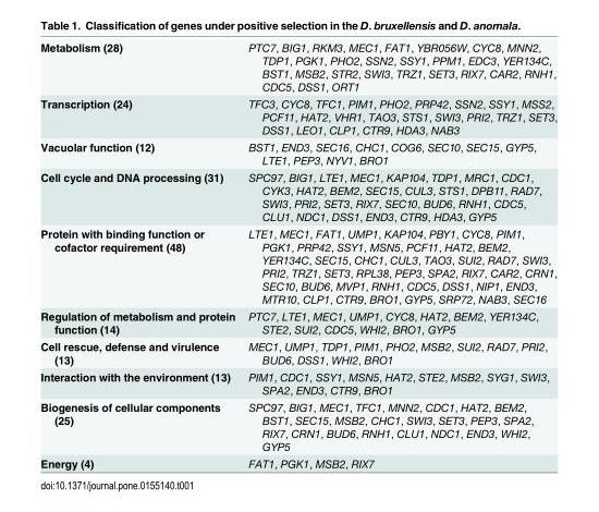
<table><tbody><tr><td>Metabolism (28)</td><td>PTC7, BIG1, RKM3, MEC1, FAT1, YBR056W, CYC8, MNN2, TDP1, PGK1, PHO2, SSN2, SSY1, PPM1, EDC3, YER134C, BST1, MSB2, STR2, SWI3, TRZ1, SET3, RIX7, CAR2, RNH1, CDC5, DSS1, ORT1</td></tr><tr><td>Transcription (24)</td><td>TFC3, CYC8, TFC1, PIM1, PHO2, PRP42, SSN2, SSY1, MSS2, PCF11, HAT2, VHR1, TAO3, STS1, SWI3, PRI2, TRZ1, SET3, DSS1, LEO1, CLP1, CTR9, HDA3, NAB3</td></tr><tr><td>Vacuolar function (12)</td><td>BST1, END3, SEC16, CHC1, COG6, SEC10, SEC15, GYP5, LTE1, PEP3, NYV1, BRO1</td></tr><tr><td>Cell cycle and DNA processing (31)</td><td>SPC97, BIG1, LTE1, MEC1, KAP104, TDP1, MRC1, CDC1, CYK3, HAT2, BEM2, SEC15, CUL3, STS1, DPB11, RAD7, SWI3, PRI2, SET3, RIX7, SEC10, BUD6, RNH1, CDC5, CLU1, NDC1, DSS1, END3, CTR9, HDA3, GYP5</td></tr><tr><td>Protein with binding function or cofactor requirement (48)</td><td>LTE1, MEC1, FAT1, UMP1, KAP104, PBY1, CYC8, PIM1, PGK1, PRP42, SSY1, MSN5, PCF11, HAT2, BEM2, YER134C, SEC15, CHC1, CUL3, TAO3, SUI2, RAD7, SWI3, PRI2, TRZ1, SET3, RPL38, PEP3, SPA2, RIX7, CAR2, CRN1, SEC10, BUD6, MVP1, RNH1, CDC5, DSS1, NIP1, END3, MTR10, CLP1, CTR9, BRO1, GYP5, SRP72, NAB3, SEC16</td></tr><tr><td>Regulation of metabolism and protein function (14)</td><td>PTC7, LTE1, MEC1, UMP1, CYC8, HAT2, BEM2, YER134C, STE2, SUI2, CDC5, WHI2, BRO1, GYP5</td></tr><tr><td>Cell rescue, defense and virulence (13)</td><td>MEC1, UMP1, TDP1, PIM1, PHO2, MSB2, SUI2, RAD7, PRI2, BUD6, DSS1, WHI2, BRO1</td></tr><tr><td>Interaction with the environment (13)</td><td>PIM1, CDC1, SSY1, MSN5, HAT2, STE2, MSB2, SYG1, SWI3, SPA2, END3, CTR9, BRO1</td></tr><tr><td>Biogenesis of cellular components (25)</td><td>SPC97, BIG1, MEC1, TFC1, MNN2, CDC1, HAT2, BEM2, BST1, SEC15, MSB2, CHC1, SWI3, SET3, PEP3, SPA2, RIX7, CRN1, BUD6, RNH1, CLU1, NDC1, END3, WHI2, GYP5</td></tr><tr><td>Energy (4)</td><td>FAT1, PGK1, MSB2, RIX7</td></tr></tbody></table>